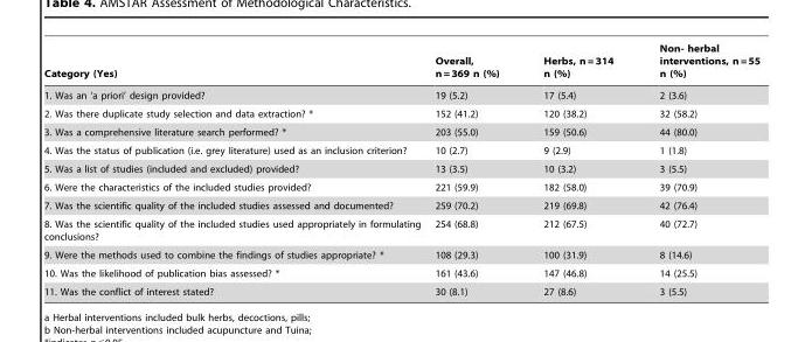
<table><thead><tr><td>Category (Yes)</td><td>Overall, n = 369 n (%)</td><td>Herbs, n = 314 n (%)</td><td>Non- herbal interventions, n = 55 n (%)</td></tr></thead><tbody><tr><td>1. Was an ‘a priori’ design provided?</td><td>19 (5.2)</td><td>17 (5.4)</td><td>2 (3.6)</td></tr><tr><td>2. Was there duplicate study selection and data extraction? *</td><td>152 (41.2)</td><td>120 (38.2)</td><td>32 (58.2)</td></tr><tr><td>3. Was a comprehensive literature search performed? *</td><td>203 (55.0)</td><td>159 (50.6)</td><td>44 (80.0)</td></tr><tr><td>4. Was the status of publication (i.e. grey literature) used as an inclusion criterion?</td><td>10 (2.7)</td><td>9 (2.9)</td><td>1 (1.8)</td></tr><tr><td>5. Was a list of studies (included and excluded) provided?</td><td>13 (3.5)</td><td>10 (3.2)</td><td>3 (5.5)</td></tr><tr><td>6. Were the characteristics of the included studies provided?</td><td>221 (59.9)</td><td>182 (58.0)</td><td>39 (70.9)</td></tr><tr><td>7. Was the scientific quality of the included studies assessed and documented?</td><td>259 (70.2)</td><td>219 (69.8)</td><td>42 (76.4)</td></tr><tr><td>8. Was the scientific quality of the included studies used appropriately in formulating conclusions?</td><td>254 (68.8)</td><td>212 (67.5)</td><td>40 (72.7)</td></tr><tr><td>9. Were the methods used to combine the findings of studies appropriate? *</td><td>108 (29.3)</td><td>100 (31.9)</td><td>8 (14.6)</td></tr><tr><td>10. Was the likelihood of publication bias assessed? *</td><td>161 (43.6)</td><td>147 (46.8)</td><td>14 (25.5)</td></tr><tr><td>11. Was the conflict of interest stated?</td><td>30 (8.1)</td><td>27 (8.6)</td><td>3 (5.5)</td></tr></tbody></table>